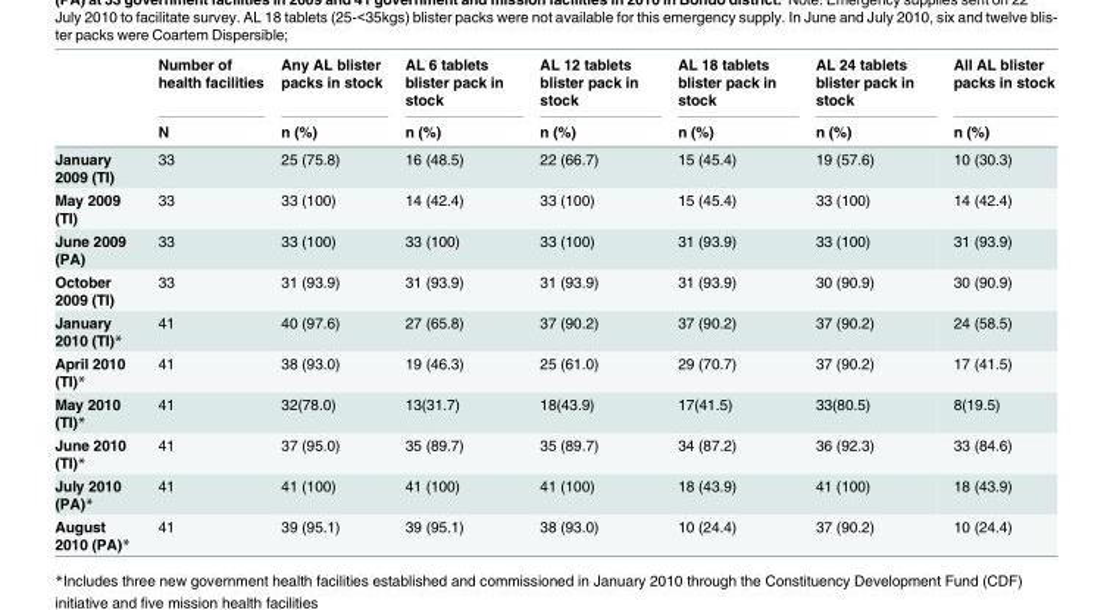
<table><thead><tr><td rowspan="2"></td><td rowspan="2">Number of health facilities N</td><td rowspan="2">Any AL blister packs in stock n (%)</td><td rowspan="2">AL 6 tablets blister pack in stock n (%)</td><td rowspan="2">AL 12 tablets blister pack in stock n (%)</td><td rowspan="2">AL 18 tablets blister pack in stock n (%)</td><td rowspan="2">AL 24 tablets blister pack in stock n (%)</td><td rowspan="2">All AL blister packs in stock n (%)</td></tr><tr></tr></thead><tbody><tr><td>January 2009 (TI)</td><td>33</td><td>25 (75.8)</td><td>16 (48.5)</td><td>22 (66.7)</td><td>15 (45.4)</td><td>19 (57.6)</td><td>10 (30.3)</td></tr><tr><td>May 2009 (TI)</td><td>33</td><td>33 (100)</td><td>14 (42.4)</td><td>33 (100)</td><td>15 (45.4)</td><td>33 (100)</td><td>14 (42.4)</td></tr><tr><td>June 2009 (PA)</td><td>33</td><td>33 (100)</td><td>33 (100)</td><td>33 (100)</td><td>31 (93.9)</td><td>33 (100)</td><td>31 (93.9)</td></tr><tr><td>October 2009 (TI)</td><td>33</td><td>31 (93.9)</td><td>31 (93.9)</td><td>31 (93.9)</td><td>31 (93.9)</td><td>30 (90.9)</td><td>30 (90.9)</td></tr><tr><td>January 2010 (TI)*</td><td>41</td><td>40 (97.6)</td><td>27 (65.8)</td><td>37 (90.2)</td><td>37 (90.2)</td><td>37 (90.2)</td><td>24 (58.5)</td></tr><tr><td>April 2010 (TI)*</td><td>41</td><td>38 (93.0)</td><td>19 (46.3)</td><td>25 (61.0)</td><td>29 (70.7)</td><td>37 (90.2)</td><td>17 (41.5)</td></tr><tr><td>May 2010 (TI)*</td><td>41</td><td>32(78.0)</td><td>13(31.7)</td><td>18(43.9)</td><td>17(41.5)</td><td>33(80.5)</td><td>8(19.5)</td></tr><tr><td>June 2010 (TI)*</td><td>41</td><td>37 (95.0)</td><td>35 (89.7)</td><td>35 (89.7)</td><td>34 (87.2)</td><td>36 (92.3)</td><td>33 (84.6)</td></tr><tr><td>July 2010 (PA)*</td><td>41</td><td>41 (100)</td><td>41 (100)</td><td>41 (100)</td><td>18 (43.9)</td><td>41 (100)</td><td>18 (43.9)</td></tr><tr><td>August 2010 (PA)*</td><td>41</td><td>39 (95.1)</td><td>39 (95.1)</td><td>38 (93.0)</td><td>10 (24.4)</td><td>37 (90.2)</td><td>10 (24.4)</td></tr></tbody></table>